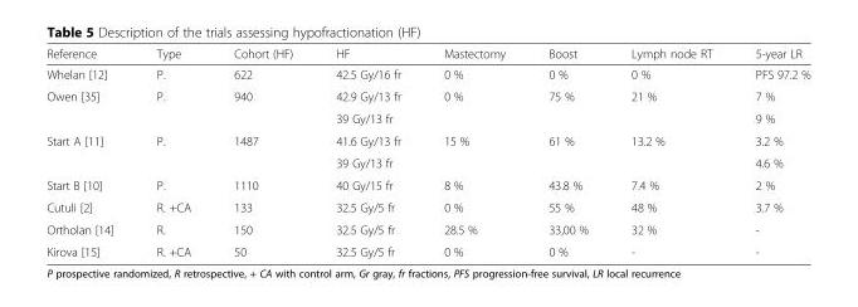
<table><thead><tr><td>Reference</td><td>Type</td><td>Cohort (HF)</td><td>HF</td><td>Mastectomy</td><td>Boost</td><td>Lymph node RT</td><td>5-year LR</td></tr></thead><tbody><tr><td>Whelan [12]</td><td>P.</td><td>622</td><td>42.5 Gy/16 fr</td><td>0 %</td><td>0 %</td><td>0 %</td><td>PFS 97.2 %</td></tr><tr><td rowspan="2">Owen [35]</td><td rowspan="2">P.</td><td rowspan="2">940</td><td>42.9 Gy/13 fr</td><td rowspan="2">0 %</td><td rowspan="2">75 %</td><td rowspan="2">21 %</td><td>7 %</td></tr><tr><td>39 Gy/13 fr</td><td>9 %</td></tr><tr><td rowspan="2">Start A [11]</td><td rowspan="2">P.</td><td rowspan="2">1487</td><td>41.6 Gy/13 fr</td><td rowspan="2">15 %</td><td rowspan="2">61 %</td><td rowspan="2">13.2 %</td><td>3.2 %</td></tr><tr><td>39 Gy/13 fr</td><td>4.6 %</td></tr><tr><td>Start B [10]</td><td>P.</td><td>1110</td><td>40 Gy/15 fr</td><td>8 %</td><td>43.8 %</td><td>7.4 %</td><td>2 %</td></tr><tr><td>Cutuli [2]</td><td>R. +CA</td><td>133</td><td>32.5 Gy/5 fr</td><td>0 %</td><td>55 %</td><td>48 %</td><td>3.7 %</td></tr><tr><td>Ortholan [14]</td><td>R.</td><td>150</td><td>32.5 Gy/5 fr</td><td>28.5 %</td><td>33,00 %</td><td>32 %</td><td>-</td></tr><tr><td>Kirova [15]</td><td>R. +CA</td><td>50</td><td>32.5 Gy/5 fr</td><td>0 %</td><td>0 %</td><td>-</td><td>-</td></tr></tbody></table>